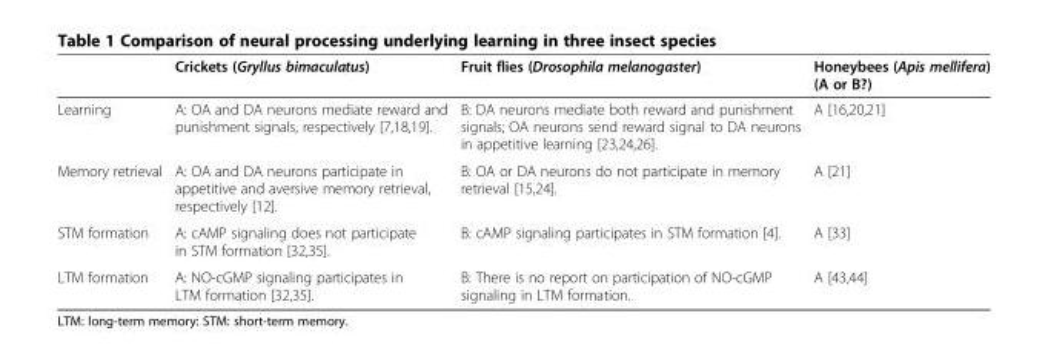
<table><thead><tr><td></td><td>Crickets (Gryllus bimaculatus)</td><td>Fruit flies (Drosophila melanogaster)</td><td>Honeybees (Apis mellifera) (A or B?)</td></tr></thead><tbody><tr><td>Learning</td><td>A: OA and DA neurons mediate reward and punishment signals, respectively [7,18,19].</td><td>B: DA neurons mediate both reward and punishment signals; OA neurons send reward signal to DA neurons in appetitive learning [23,24,26].</td><td>A [16,20,21]</td></tr><tr><td>Memory retrieval</td><td>A: OA and DA neurons participate in appetitive and aversive memory retrieval, respectively [12].</td><td>B: OA or DA neurons do not participate in memory retrieval [15,24].</td><td>A [21]</td></tr><tr><td>STM formation</td><td>A: cAMP signaling does not participate in STM formation [32,35].</td><td>B: cAMP signaling participates in STM formation [4].</td><td>A [33]</td></tr><tr><td>LTM formation</td><td>A: NO-cGMP signaling participates in LTM formation [32,35].</td><td>B: There is no report on participation of NO-cGMP signaling in LTM formation.</td><td>A [43,44]</td></tr></tbody></table>